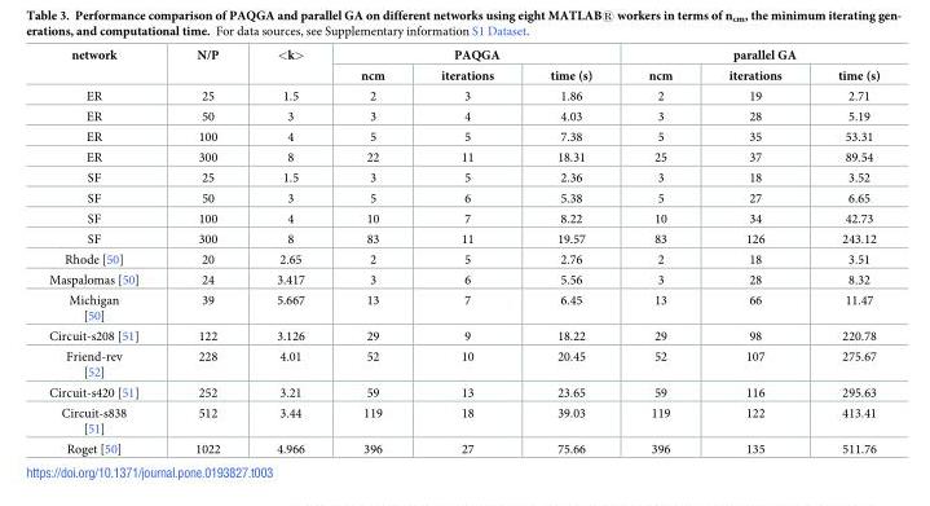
<table><thead><tr><td rowspan="2">network</td><td rowspan="2">N/P</td><td rowspan="2">&lt;k&gt;</td><td colspan="3">PAQGA</td><td colspan="3">parallel GA</td></tr><tr><td>ncm</td><td>iterations</td><td>time (s)</td><td>ncm</td><td>iterations</td><td>time (s)</td></tr></thead><tbody><tr><td>ER</td><td>25</td><td>1.5</td><td>2</td><td>3</td><td>1.86</td><td>2</td><td>19</td><td>2.71</td></tr><tr><td>ER</td><td>50</td><td>3</td><td>3</td><td>4</td><td>4.03</td><td>3</td><td>28</td><td>5.19</td></tr><tr><td>ER</td><td>100</td><td>4</td><td>5</td><td>5</td><td>7.38</td><td>5</td><td>35</td><td>53.31</td></tr><tr><td>ER</td><td>300</td><td>8</td><td>22</td><td>11</td><td>18.31</td><td>25</td><td>37</td><td>89.54</td></tr><tr><td>SF</td><td>25</td><td>1.5</td><td>3</td><td>5</td><td>2.36</td><td>3</td><td>18</td><td>3.52</td></tr><tr><td>SF</td><td>50</td><td>3</td><td>5</td><td>6</td><td>5.38</td><td>5</td><td>27</td><td>6.65</td></tr><tr><td>SF</td><td>100</td><td>4</td><td>10</td><td>7</td><td>8.22</td><td>10</td><td>34</td><td>42.73</td></tr><tr><td>SF</td><td>300</td><td>8</td><td>83</td><td>11</td><td>19.57</td><td>83</td><td>126</td><td>243.12</td></tr><tr><td>Rhode [50]</td><td>20</td><td>2.65</td><td>2</td><td>5</td><td>2.76</td><td>2</td><td>18</td><td>3.51</td></tr><tr><td>Maspalomas [50]</td><td>24</td><td>3.417</td><td>3</td><td>6</td><td>5.56</td><td>3</td><td>28</td><td>8.32</td></tr><tr><td>Michigan [50]</td><td>39</td><td>5.667</td><td>13</td><td>7</td><td>6.45</td><td>13</td><td>66</td><td>11.47</td></tr><tr><td>Circuit-s208 [51]</td><td>122</td><td>3.126</td><td>29</td><td>9</td><td>18.22</td><td>29</td><td>98</td><td>220.78</td></tr><tr><td>Friend-rev [52]</td><td>228</td><td>4.01</td><td>52</td><td>10</td><td>20.45</td><td>52</td><td>107</td><td>275.67</td></tr><tr><td>Circuit-s420 [51]</td><td>252</td><td>3.21</td><td>59</td><td>13</td><td>23.65</td><td>59</td><td>116</td><td>295.63</td></tr><tr><td>Circuit-s838 [51]</td><td>512</td><td>3.44</td><td>119</td><td>18</td><td>39.03</td><td>119</td><td>122</td><td>413.41</td></tr><tr><td>Roget [50]</td><td>1022</td><td>4.966</td><td>396</td><td>27</td><td>75.66</td><td>396</td><td>135</td><td>511.76</td></tr></tbody></table>